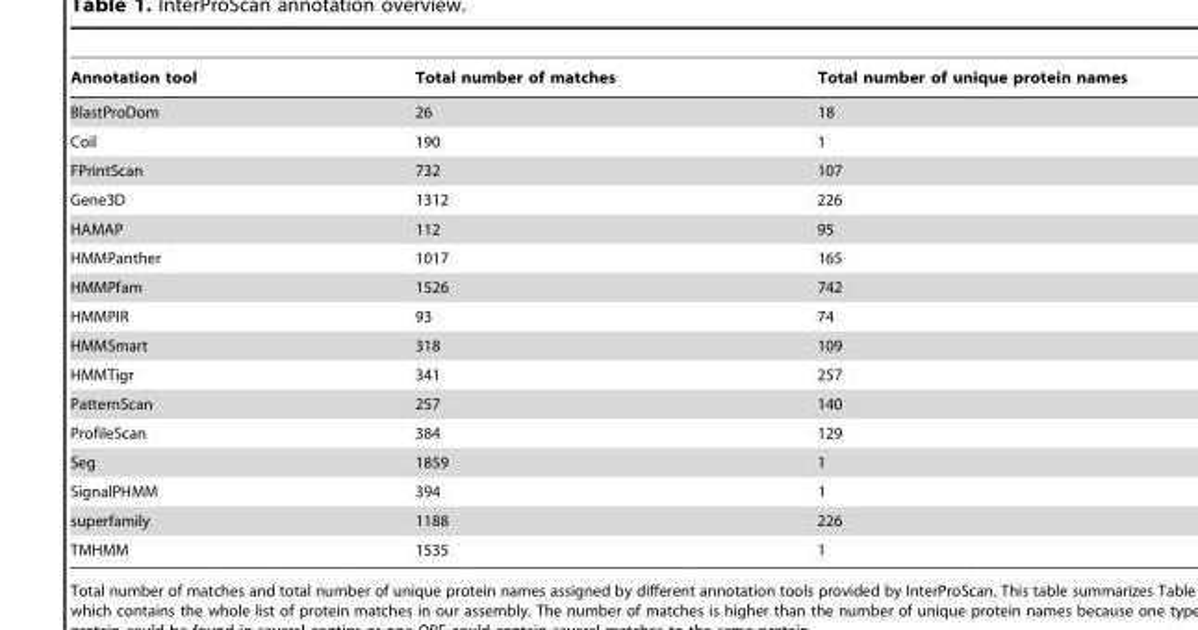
<table><thead><tr><td>Annotation tool</td><td>Total number of matches</td><td>Total number of unique protein names</td></tr></thead><tbody><tr><td>BlastProDom</td><td>26</td><td>18</td></tr><tr><td>Coil</td><td>190</td><td>1</td></tr><tr><td>FPrintScan</td><td>732</td><td>107</td></tr><tr><td>Gene3D</td><td>1312</td><td>226</td></tr><tr><td>HAMAP</td><td>112</td><td>95</td></tr><tr><td>HMMPanther</td><td>1017</td><td>165</td></tr><tr><td>HMMPfam</td><td>1526</td><td>742</td></tr><tr><td>HMMPIR</td><td>93</td><td>74</td></tr><tr><td>HMMSmart</td><td>318</td><td>109</td></tr><tr><td>HMMTigr</td><td>341</td><td>257</td></tr><tr><td>PatternScan</td><td>257</td><td>140</td></tr><tr><td>ProfileScan</td><td>384</td><td>129</td></tr><tr><td>Seg</td><td>1859</td><td>1</td></tr><tr><td>SignalPHMM</td><td>394</td><td>1</td></tr><tr><td>superfamily</td><td>1188</td><td>226</td></tr><tr><td>TMHMM</td><td>1535</td><td>1</td></tr></tbody></table>